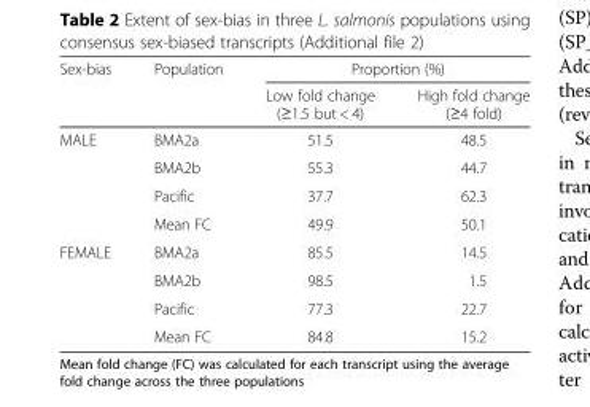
<table><thead><tr><td rowspan="2">Sex-bias</td><td rowspan="2">Population</td><td colspan="2">Proportion (%)</td></tr><tr><td>Low fold change (≥1.5 but &lt; 4)</td><td>High fold change (≥4 fold)</td></tr></thead><tbody><tr><td rowspan="4">MALE</td><td>BMA2a</td><td>51.5</td><td>48.5</td></tr><tr><td>BMA2b</td><td>55.3</td><td>44.7</td></tr><tr><td>Pacific</td><td>37.7</td><td>62.3</td></tr><tr><td>Mean FC</td><td>49.9</td><td>50.1</td></tr><tr><td rowspan="4">FEMALE</td><td>BMA2a</td><td>85.5</td><td>14.5</td></tr><tr><td>BMA2b</td><td>98.5</td><td>1.5</td></tr><tr><td>Pacific</td><td>77.3</td><td>22.7</td></tr><tr><td>Mean FC</td><td>84.8</td><td>15.2</td></tr></tbody></table>